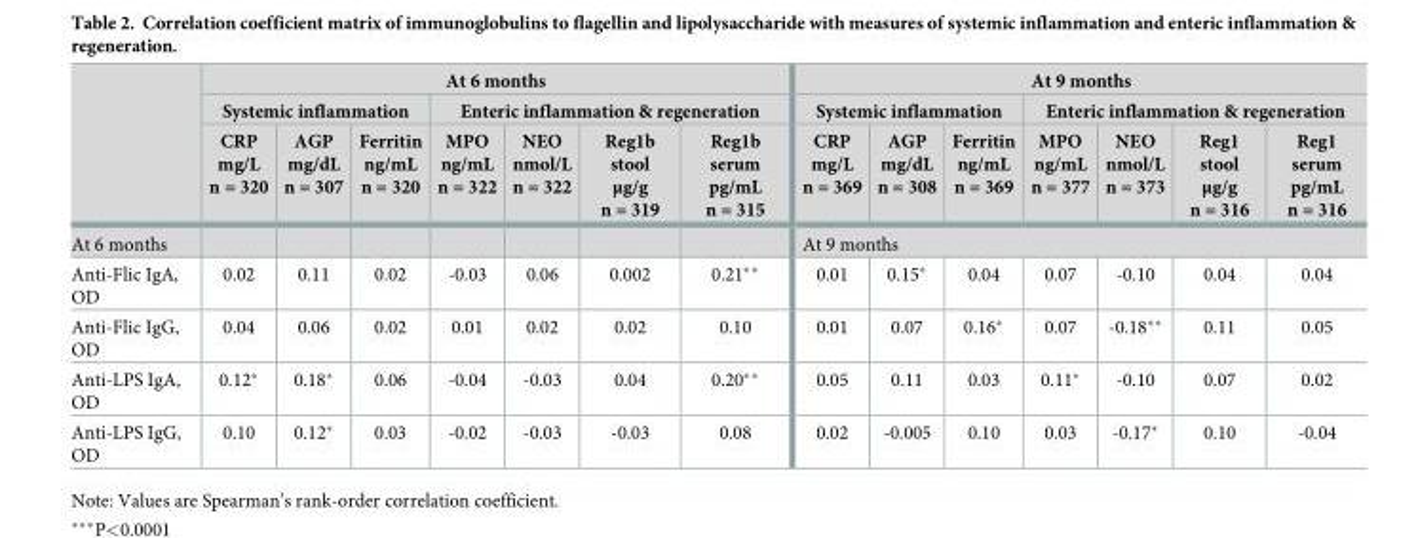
<table><thead><tr><td rowspan="3"></td><td colspan="7">At 6 months</td><td colspan="7">At 9 months</td></tr><tr><td colspan="3">Systemic inflammation</td><td colspan="4">Enteric inflammation &amp; regeneration</td><td colspan="3">Systemic inflammation</td><td colspan="4">Enteric inflammation &amp; regeneration</td></tr><tr><td>CRP mg/L n = 320</td><td>AGP mg/dL n = 307</td><td>Ferritin ng/mL n = 320</td><td>MPO ng/mL n = 322</td><td>NEO nmol/L n = 322</td><td>Reg1b stool μg/g n = 319</td><td>Reg1b serum pg/mL n = 315</td><td>CRP mg/L n = 369</td><td>AGP mg/dL n = 308</td><td>Ferritin ng/mL n = 369</td><td>MPO ng/mL n = 377</td><td>NEO nmol/L n = 373</td><td>Reg1 stool μg/g n = 316</td><td>Reg1 serum pg/mL n = 316</td></tr></thead><tbody><tr><td>At 6 months</td><td></td><td></td><td></td><td></td><td></td><td></td><td></td><td colspan="7">At 9 months</td></tr><tr><td>Anti-Flic IgA, OD</td><td>0.02</td><td>0.11</td><td>0.02</td><td>-0.03</td><td>0.06</td><td>0.002</td><td>0.21**</td><td>0.01</td><td>0.15*</td><td>0.04</td><td>0.07</td><td>-0.10</td><td>0.04</td><td>0.04</td></tr><tr><td>Anti-Flic IgG, OD</td><td>0.04</td><td>0.06</td><td>0.02</td><td>0.01</td><td>0.02</td><td>0.02</td><td>0.10</td><td>0.01</td><td>0.07</td><td>0.16*</td><td>0.07</td><td>-0.18**</td><td>0.11</td><td>0.05</td></tr><tr><td>Anti-LPS IgA, OD</td><td>0.12*</td><td>0.18*</td><td>0.06</td><td>-0.04</td><td>-0.03</td><td>0.04</td><td>0.20**</td><td>0.05</td><td>0.11</td><td>0.03</td><td>0.11*</td><td>-0.10</td><td>0.07</td><td>0.02</td></tr><tr><td>Anti-LPS IgG, OD</td><td>0.10</td><td>0.12*</td><td>0.03</td><td>-0.02</td><td>-0.03</td><td>-0.03</td><td>0.08</td><td>0.02</td><td>-0.005</td><td>0.10</td><td>0.03</td><td>-0.17*</td><td>0.10</td><td>-0.04</td></tr></tbody></table>